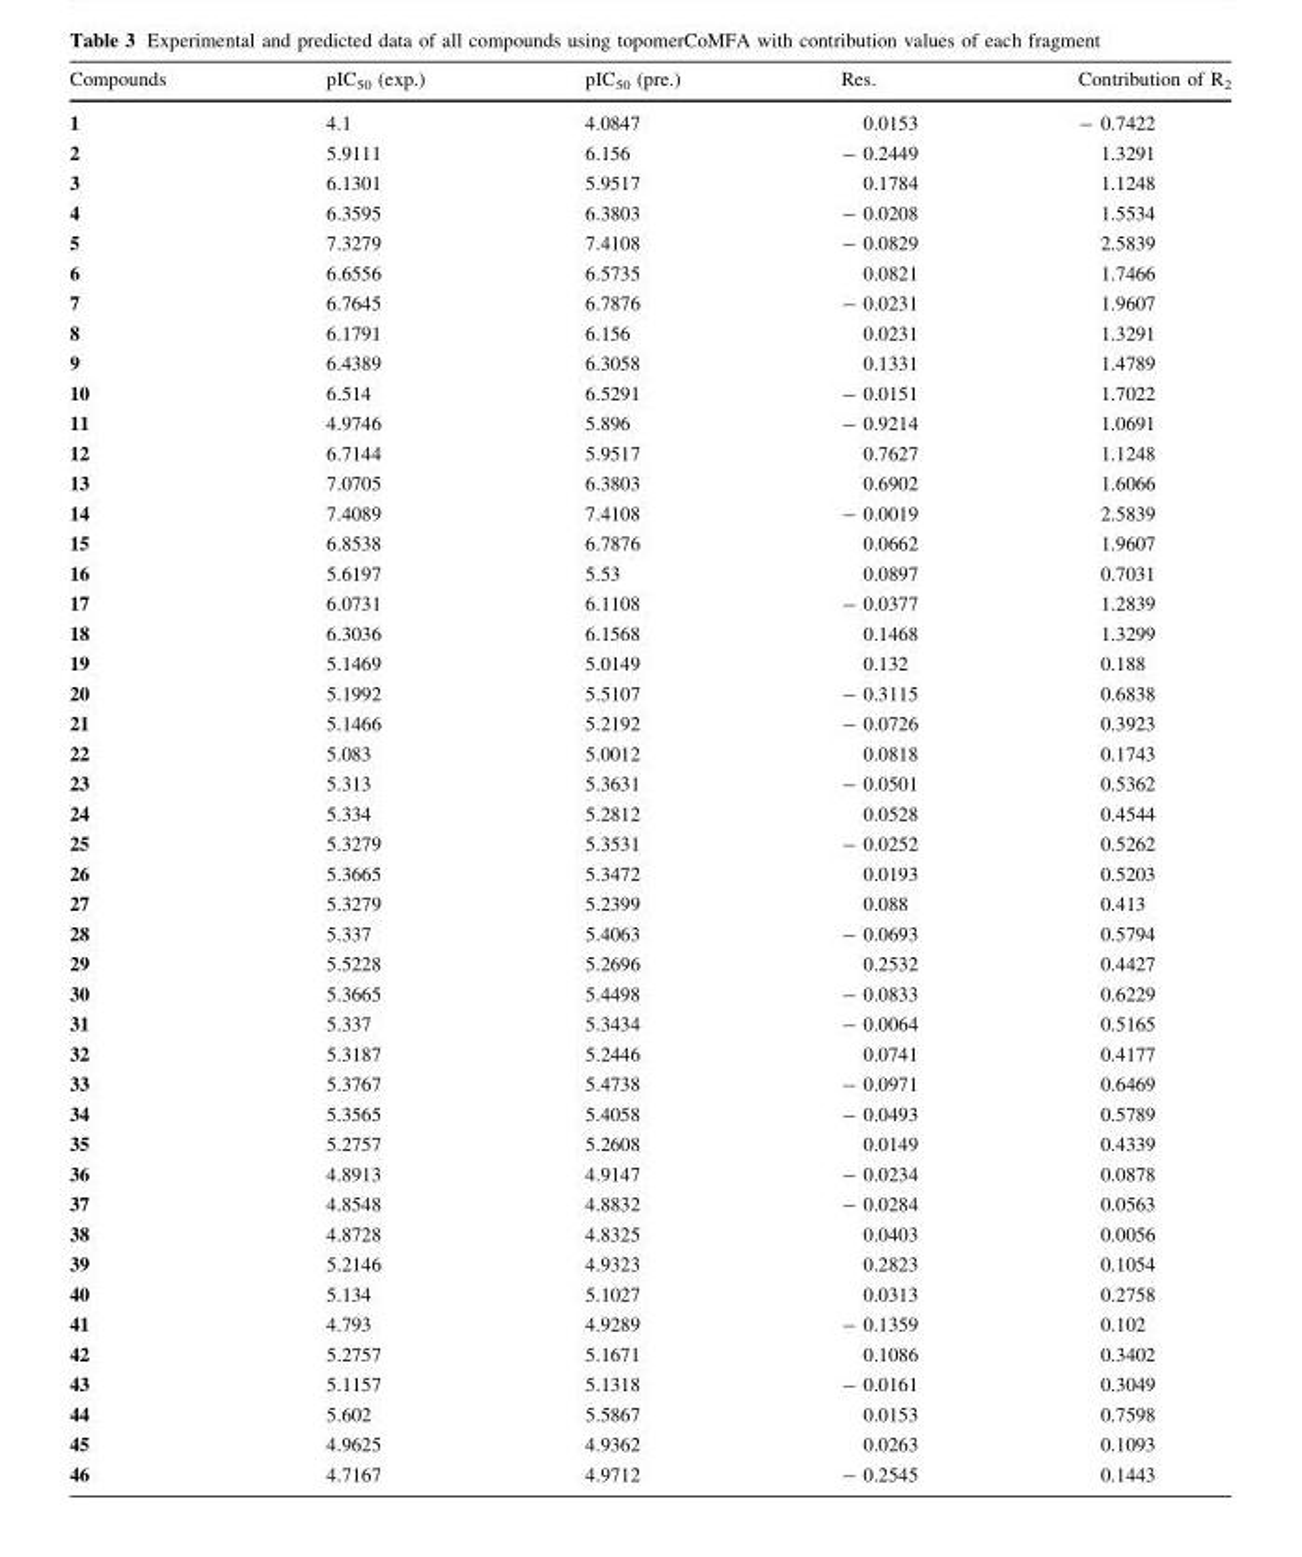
<table><thead><tr><td>Compounds</td><td>pIC<sub>50</sub> (exp.)</td><td>pIC<sub>50</sub> (pre.)</td><td>Res.</td><td>Contribution of R<sub>2</sub></td></tr></thead><tbody><tr><td>1</td><td>4.1</td><td>4.0847</td><td>0.0153</td><td>- 0.7422</td></tr><tr><td>2</td><td>5.9111</td><td>6.156</td><td>- 0.2449</td><td>1.3291</td></tr><tr><td>3</td><td>6.1301</td><td>5.9517</td><td>0.1784</td><td>1.1248</td></tr><tr><td>4</td><td>6.3595</td><td>6.3803</td><td>- 0.0208</td><td>1.5534</td></tr><tr><td>5</td><td>7.3279</td><td>7.4108</td><td>- 0.0829</td><td>2.5839</td></tr><tr><td>6</td><td>6.6556</td><td>6.5735</td><td>0.0821</td><td>1.7466</td></tr><tr><td>7</td><td>6.7645</td><td>6.7876</td><td>- 0.0231</td><td>1.9607</td></tr><tr><td>8</td><td>6.1791</td><td>6.156</td><td>0.0231</td><td>1.3291</td></tr><tr><td>9</td><td>6.4389</td><td>6.3058</td><td>0.1331</td><td>1.4789</td></tr><tr><td>10</td><td>6.514</td><td>6.5291</td><td>- 0.0151</td><td>1.7022</td></tr><tr><td>11</td><td>4.9746</td><td>5.896</td><td>- 0.9214</td><td>1.0691</td></tr><tr><td>12</td><td>6.7144</td><td>5.9517</td><td>0.7627</td><td>1.1248</td></tr><tr><td>13</td><td>7.0705</td><td>6.3803</td><td>0.6902</td><td>1.6066</td></tr><tr><td>14</td><td>7.4089</td><td>7.4108</td><td>- 0.0019</td><td>2.5839</td></tr><tr><td>15</td><td>6.8538</td><td>6.7876</td><td>0.0662</td><td>1.9607</td></tr><tr><td>16</td><td>5.6197</td><td>5.53</td><td>0.0897</td><td>0.7031</td></tr><tr><td>17</td><td>6.0731</td><td>6.1108</td><td>- 0.0377</td><td>1.2839</td></tr><tr><td>18</td><td>6.3036</td><td>6.1568</td><td>0.1468</td><td>1.3299</td></tr><tr><td>19</td><td>5.1469</td><td>5.0149</td><td>0.132</td><td>0.188</td></tr><tr><td>20</td><td>5.1992</td><td>5.5107</td><td>- 0.3115</td><td>0.6838</td></tr><tr><td>21</td><td>5.1466</td><td>5.2192</td><td>- 0.0726</td><td>0.3923</td></tr><tr><td>22</td><td>5.083</td><td>5.0012</td><td>0.0818</td><td>0.1743</td></tr><tr><td>23</td><td>5.313</td><td>5.3631</td><td>- 0.0501</td><td>0.5362</td></tr><tr><td>24</td><td>5.334</td><td>5.2812</td><td>0.0528</td><td>0.4544</td></tr><tr><td>25</td><td>5.3279</td><td>5.3531</td><td>- 0.0252</td><td>0.5262</td></tr><tr><td>26</td><td>5.3665</td><td>5.3472</td><td>0.0193</td><td>0.5203</td></tr><tr><td>27</td><td>5.3279</td><td>5.2399</td><td>0.088</td><td>0.413</td></tr><tr><td>28</td><td>5.337</td><td>5.4063</td><td>- 0.0693</td><td>0.5794</td></tr><tr><td>29</td><td>5.5228</td><td>5.2696</td><td>0.2532</td><td>0.4427</td></tr><tr><td>30</td><td>5.3665</td><td>5.4498</td><td>- 0.0833</td><td>0.6229</td></tr><tr><td>31</td><td>5.337</td><td>5.3434</td><td>- 0.0064</td><td>0.5165</td></tr><tr><td>32</td><td>5.3187</td><td>5.2446</td><td>0.0741</td><td>0.4177</td></tr><tr><td>33</td><td>5.3767</td><td>5.4738</td><td>- 0.0971</td><td>0.6469</td></tr><tr><td>34</td><td>5.3565</td><td>5.4058</td><td>- 0.0493</td><td>0.5789</td></tr><tr><td>35</td><td>5.2757</td><td>5.2608</td><td>0.0149</td><td>0.4339</td></tr><tr><td>36</td><td>4.8913</td><td>4.9147</td><td>- 0.0234</td><td>0.0878</td></tr><tr><td>37</td><td>4.8548</td><td>4.8832</td><td>- 0.0284</td><td>0.0563</td></tr><tr><td>38</td><td>4.8728</td><td>4.8325</td><td>0.0403</td><td>0.0056</td></tr><tr><td>39</td><td>5.2146</td><td>4.9323</td><td>0.2823</td><td>0.1054</td></tr><tr><td>40</td><td>5.134</td><td>5.1027</td><td>0.0313</td><td>0.2758</td></tr><tr><td>41</td><td>4.793</td><td>4.9289</td><td>- 0.1359</td><td>0.102</td></tr><tr><td>42</td><td>5.2757</td><td>5.1671</td><td>0.1086</td><td>0.3402</td></tr><tr><td>43</td><td>5.1157</td><td>5.1318</td><td>- 0.0161</td><td>0.3049</td></tr><tr><td>44</td><td>5.602</td><td>5.5867</td><td>0.0153</td><td>0.7598</td></tr><tr><td>45</td><td>4.9625</td><td>4.9362</td><td>0.0263</td><td>0.1093</td></tr><tr><td>46</td><td>4.7167</td><td>4.9712</td><td>- 0.2545</td><td>0.1443</td></tr></tbody></table>